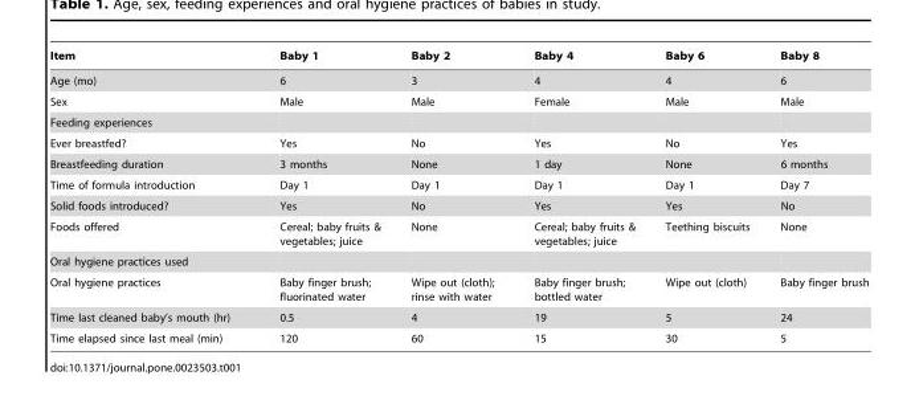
<table><thead><tr><td>Item</td><td>Baby 1</td><td>Baby 2</td><td>Baby 4</td><td>Baby 6</td><td>Baby 8</td></tr></thead><tbody><tr><td>Age (mo)</td><td>6</td><td>3</td><td>4</td><td>4</td><td>6</td></tr><tr><td>Sex</td><td>Male</td><td>Male</td><td>Female</td><td>Male</td><td>Male</td></tr><tr><td colspan="6">Feeding experiences</td></tr><tr><td>Ever breastfed?</td><td>Yes</td><td>No</td><td>Yes</td><td>No</td><td>Yes</td></tr><tr><td>Breastfeeding duration</td><td>3 months</td><td>None</td><td>1 day</td><td>None</td><td>6 months</td></tr><tr><td>Time of formula introduction</td><td>Day 1</td><td>Day 1</td><td>Day 1</td><td>Day 1</td><td>Day 7</td></tr><tr><td>Solid foods introduced?</td><td>Yes</td><td>No</td><td>Yes</td><td>Yes</td><td>No</td></tr><tr><td>Foods offered</td><td>Cereal; baby fruits &amp; vegetables; juice</td><td>None</td><td>Cereal; baby fruits &amp; vegetables; juice</td><td>Teething biscuits</td><td>None</td></tr><tr><td colspan="6">Oral hygiene practices used</td></tr><tr><td>Oral hygiene practices</td><td>Baby finger brush; fluorinated water</td><td>Wipe out (cloth); rinse with water</td><td>Baby finger brush; bottled water</td><td>Wipe out (cloth)</td><td>Baby finger brush</td></tr><tr><td>Time last cleaned baby’s mouth (hr)</td><td>0.5</td><td>4</td><td>19</td><td>5</td><td>24</td></tr><tr><td>Time elapsed since last meal (min)</td><td>120</td><td>60</td><td>15</td><td>30</td><td>5</td></tr></tbody></table>